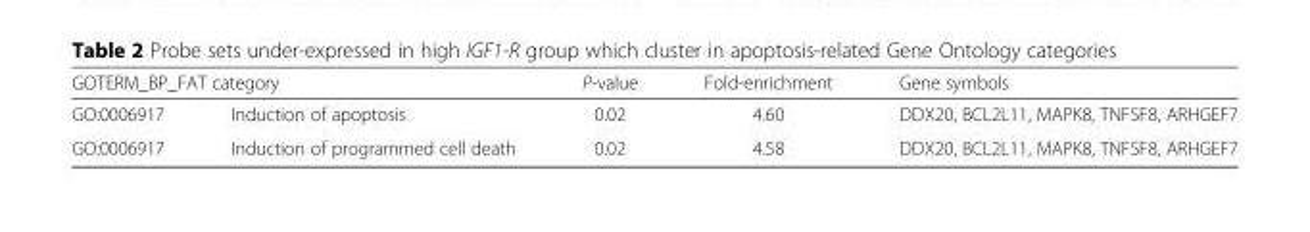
<table><thead><tr><td colspan="2">GOTERM_BP_FAT category</td><td rowspan="2">P-value 0.02</td><td rowspan="2">Fold-enrichment 4.60</td><td rowspan="2">Gene symbols DDX20, BCL2L11, MAPK8, TNFSF8, ARHGEF7</td></tr><tr><td>GO:0006917</td><td>Induction of apoptosis</td></tr></thead><tbody><tr><td>GO:0006917</td><td>Induction of programmed cell death</td><td>0.02</td><td>4.58</td><td>DDX20, BCL2L11, MAPK8, TNFSF8, ARHGEF7</td></tr></tbody></table>